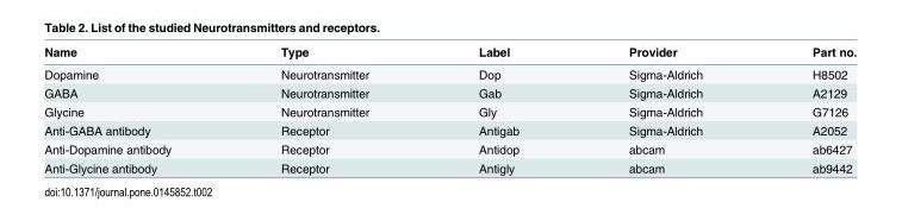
<table><thead><tr><td>Name</td><td>Type</td><td>Label</td><td>Provider</td><td>Part no.</td></tr></thead><tbody><tr><td>Dopamine</td><td>Neurotransmitter</td><td>Dop</td><td>Sigma-Aldrich</td><td>H8502</td></tr><tr><td>GABA</td><td>Neurotransmitter</td><td>Gab</td><td>Sigma-Aldrich</td><td>A2129</td></tr><tr><td>Glycine</td><td>Neurotransmitter</td><td>Gly</td><td>Sigma-Aldrich</td><td>G7126</td></tr><tr><td>Anti-GABA antibody</td><td>Receptor</td><td>Antigab</td><td>Sigma-Aldrich</td><td>A2052</td></tr><tr><td>Anti-Dopamine antibody</td><td>Receptor</td><td>Antidop</td><td>abcam</td><td>ab6427</td></tr><tr><td>Anti-Glycine antibody</td><td>Receptor</td><td>Antigly</td><td>abcam</td><td>ab9442</td></tr></tbody></table>